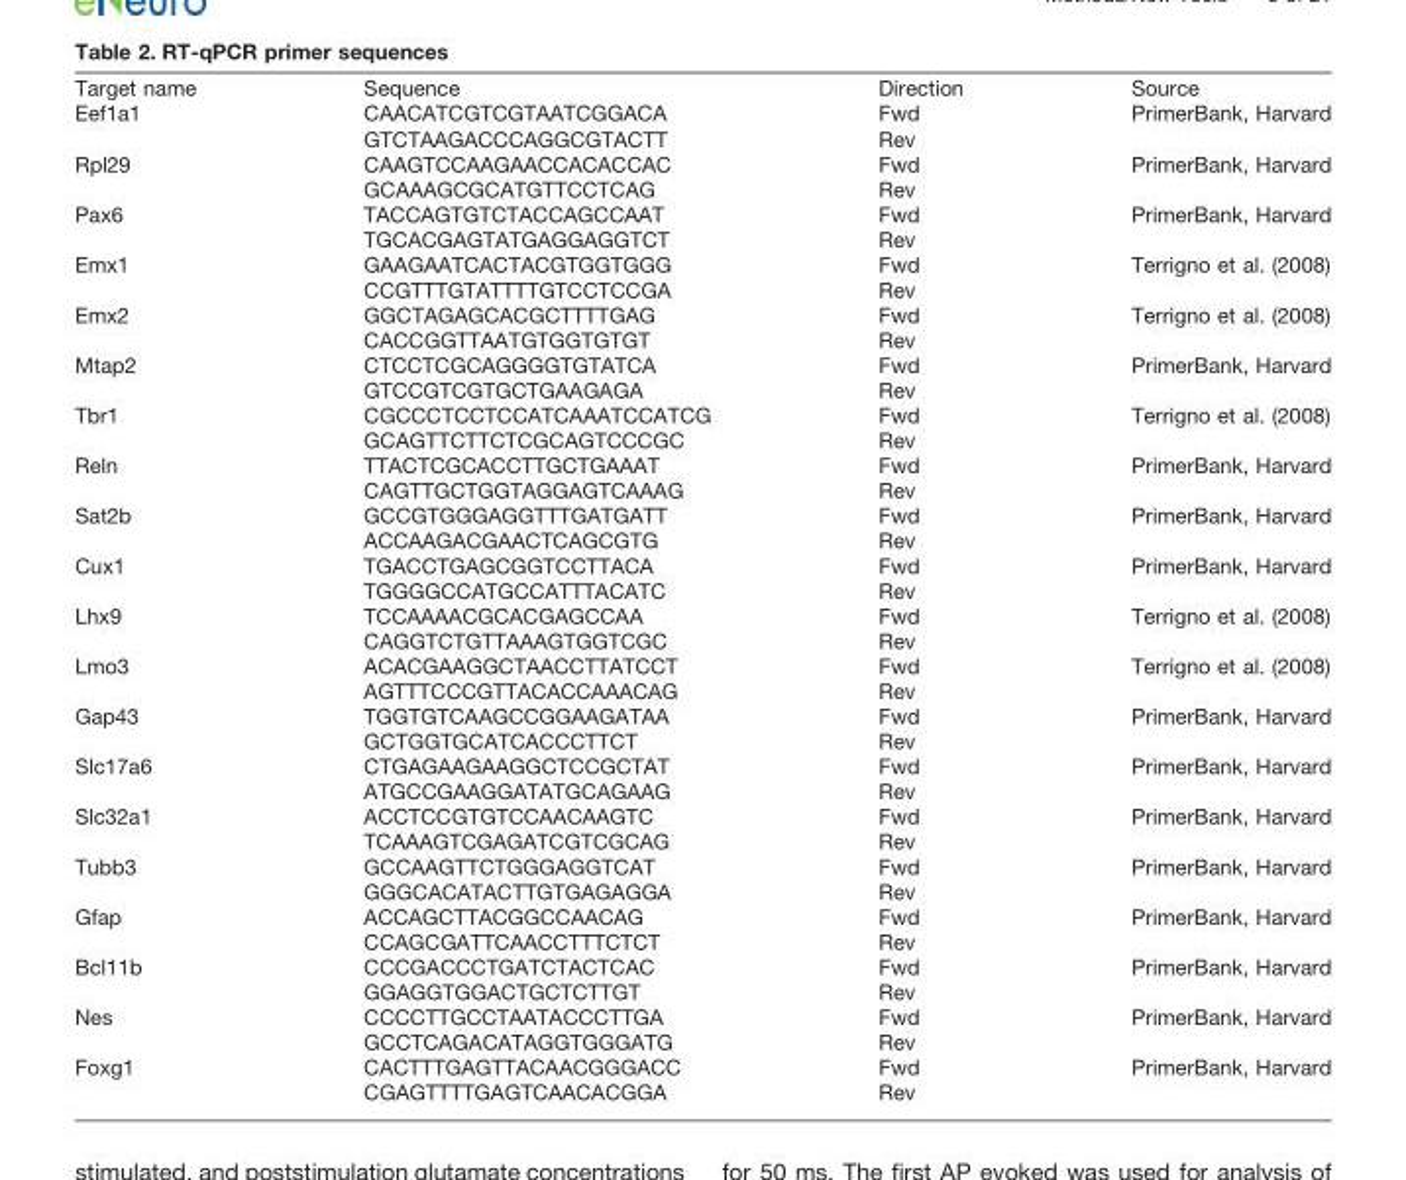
<table><thead><tr><td>Target name</td><td>Sequence</td><td>Direction</td><td>Source</td></tr></thead><tbody><tr><td rowspan="2">Eef1a1</td><td>CAACATCGTCGTAATCGGACA</td><td>Fwd</td><td>PrimerBank, Harvard</td></tr><tr><td>GTCTAAGACCCAGGCGTACTT</td><td>Rev</td><td></td></tr><tr><td rowspan="2">Rpl29</td><td>CAAGTCCAAGAACCACACCAC</td><td>Fwd</td><td>PrimerBank, Harvard</td></tr><tr><td>GCAAAGCGCATGTTCCTCAG</td><td>Rev</td><td></td></tr><tr><td rowspan="2">Pax6</td><td>TACCAGTGTCTACCAGCCAAT</td><td>Fwd</td><td>PrimerBank, Harvard</td></tr><tr><td>TGCACGAGTATGAGGAGGTCT</td><td>Rev</td><td></td></tr><tr><td rowspan="2">Emx1</td><td>GAAGAATCACTACGTGGTGGG</td><td>Fwd</td><td>Terrigno et al. (2008)</td></tr><tr><td>CCGTTTGTATTTTGTCCTCCGA</td><td>Rev</td><td></td></tr><tr><td rowspan="2">Emx2</td><td>GGCTAGAGCACGCTTTTGAG</td><td>Fwd</td><td>Terrigno et al. (2008)</td></tr><tr><td>CACCGGTTAATGTGGTGTGT</td><td>Rev</td><td></td></tr><tr><td rowspan="2">Mtap2</td><td>CTCCTCGCAGGGGTGTATCA</td><td>Fwd</td><td>PrimerBank, Harvard</td></tr><tr><td>GTCCGTCGTGCTGAAGAGA</td><td>Rev</td><td></td></tr><tr><td rowspan="2">Tbr1</td><td>CGCCCTCCTCCATCAAATCCATCG</td><td>Fwd</td><td>Terrigno et al. (2008)</td></tr><tr><td>GCAGTTCTTCTCGCAGTCCCGC</td><td>Rev</td><td></td></tr><tr><td rowspan="2">Reln</td><td>TTACTCGCACCTTGCTGAAAT</td><td>Fwd</td><td>PrimerBank, Harvard</td></tr><tr><td>CAGTTGCTGGTAGGAGTCAAAG</td><td>Rev</td><td></td></tr><tr><td rowspan="2">Sat2b</td><td>GCCGTGGGAGGTTTGATGATT</td><td>Fwd</td><td>PrimerBank, Harvard</td></tr><tr><td>ACCAAGACGAACTCAGCGTG</td><td>Rev</td><td></td></tr><tr><td rowspan="2">Cux1</td><td>TGACCTGAGCGGTCCTTACA</td><td>Fwd</td><td>PrimerBank, Harvard</td></tr><tr><td>TGGGGCCATGCCATTTACATC</td><td>Rev</td><td></td></tr><tr><td rowspan="2">Lhx9</td><td>TCCAAAACGCACGAGCCAA</td><td>Fwd</td><td>Terrigno et al. (2008)</td></tr><tr><td>CAGGTCTGTTAAAGTGGTCGC</td><td>Rev</td><td></td></tr><tr><td rowspan="2">Lmo3</td><td>ACACGAAGGCTAACCTTATCCT</td><td>Fwd</td><td>Terrigno et al. (2008)</td></tr><tr><td>AGTTTCCCGTTACACCAAACAG</td><td>Rev</td><td></td></tr><tr><td rowspan="2">Gap43</td><td>TGGTGTCAAGCCGGAAGATAA</td><td>Fwd</td><td>PrimerBank, Harvard</td></tr><tr><td>GCTGGTGCATCACCCTTCT</td><td>Rev</td><td></td></tr><tr><td rowspan="2">Slc17a6</td><td>CTGAGAAGAAGGCTCCGCTAT</td><td>Fwd</td><td>PrimerBank, Harvard</td></tr><tr><td>ATGCCGAAGGATATGCAGAAG</td><td>Rev</td><td></td></tr><tr><td rowspan="2">Slc32a1</td><td>ACCTCCGTGTCCAACAAGTC</td><td>Fwd</td><td>PrimerBank, Harvard</td></tr><tr><td>TCAAAGTCGAGATCGTCGCAG</td><td>Rev</td><td></td></tr><tr><td rowspan="2">Tubb3</td><td>GCCAAGTTCTGGGAGGTCAT</td><td>Fwd</td><td>PrimerBank, Harvard</td></tr><tr><td>GGGCACATACTTGTGAGAGGA</td><td>Rev</td><td></td></tr><tr><td rowspan="2">Gfap</td><td>ACCAGCTTACGGCCAACAG</td><td>Fwd</td><td>PrimerBank, Harvard</td></tr><tr><td>CCAGCGATTCAACCTTTCTCT</td><td>Rev</td><td></td></tr><tr><td rowspan="2">Bcl11b</td><td>CCCGACCCTGATCTACTCAC</td><td>Fwd</td><td>PrimerBank, Harvard</td></tr><tr><td>GGAGGTGGACTGCTCTTGT</td><td>Rev</td><td></td></tr><tr><td rowspan="2">Nes</td><td>CCCCTTGCCTAATACCCTTGA</td><td>Fwd</td><td>PrimerBank, Harvard</td></tr><tr><td>GCCTCAGACATAGGTGGGATG</td><td>Rev</td><td></td></tr><tr><td rowspan="2">Foxg1</td><td>CACTTTGAGTTACAACGGGACC</td><td>Fwd</td><td>PrimerBank, Harvard</td></tr><tr><td>CGAGTTTTGAGTCAACACGGA</td><td>Rev</td><td></td></tr></tbody></table>